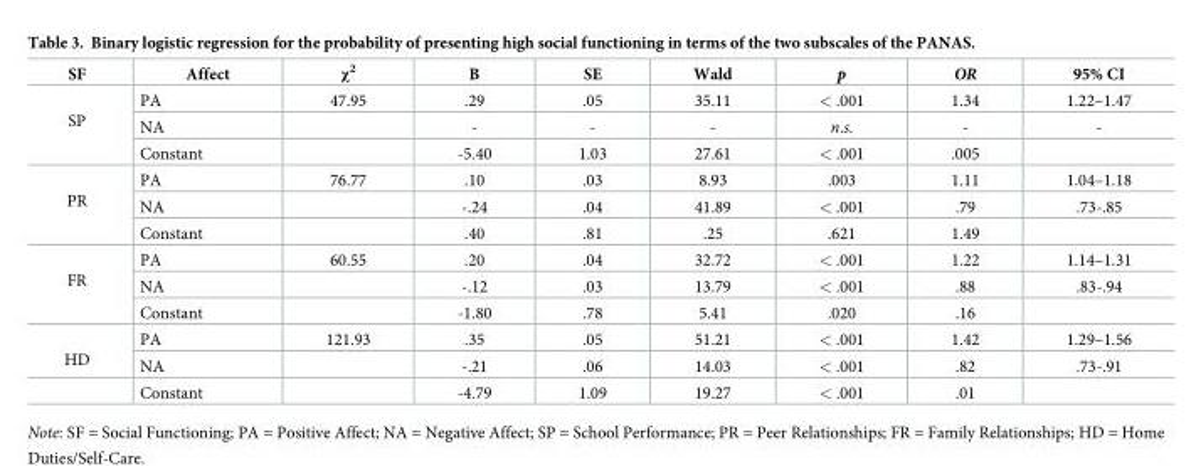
<table><thead><tr><td>SF</td><td>Affect</td><td>χ<sup>2</sup></td><td>B</td><td>SE</td><td>Wald</td><td>p</td><td>OR</td><td>95% CI</td></tr></thead><tbody><tr><td rowspan="3">SP</td><td>PA</td><td>47.95</td><td>.29</td><td>.05</td><td>35.11</td><td>&lt; .001</td><td>1.34</td><td>1.22–1.47</td></tr><tr><td>NA</td><td></td><td>-</td><td>-</td><td>-</td><td>n.s.</td><td>-</td><td>-</td></tr><tr><td>Constant</td><td></td><td>-5.40</td><td>1.03</td><td>27.61</td><td>&lt; .001</td><td>.005</td><td></td></tr><tr><td rowspan="3">PR</td><td>PA</td><td>76.77</td><td>.10</td><td>.03</td><td>8.93</td><td>.003</td><td>1.11</td><td>1.04–1.18</td></tr><tr><td>NA</td><td></td><td>-.24</td><td>.04</td><td>41.89</td><td>&lt; .001</td><td>.79</td><td>.73-.85</td></tr><tr><td>Constant</td><td></td><td>.40</td><td>.81</td><td>.25</td><td>.621</td><td>1.49</td><td></td></tr><tr><td rowspan="3">FR</td><td>PA</td><td>60.55</td><td>.20</td><td>.04</td><td>32.72</td><td>&lt; .001</td><td>1.22</td><td>1.14–1.31</td></tr><tr><td>NA</td><td></td><td>-.12</td><td>.03</td><td>13.79</td><td>&lt; .001</td><td>.88</td><td>.83-.94</td></tr><tr><td>Constant</td><td></td><td>-1.80</td><td>.78</td><td>5.41</td><td>.020</td><td>.16</td><td></td></tr><tr><td rowspan="3">HD</td><td>PA</td><td>121.93</td><td>.35</td><td>.05</td><td>51.21</td><td>&lt; .001</td><td>1.42</td><td>1.29–1.56</td></tr><tr><td>NA</td><td></td><td>-.21</td><td>.06</td><td>14.03</td><td>&lt; .001</td><td>.82</td><td>.73-.91</td></tr><tr><td>Constant</td><td></td><td>-4.79</td><td>1.09</td><td>19.27</td><td>&lt; .001</td><td>.01</td><td></td></tr></tbody></table>